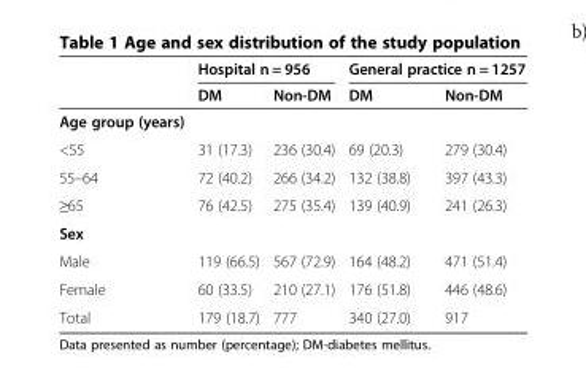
<table><thead><tr><td rowspan="2"></td><td colspan="2">Hospital n = 956</td><td colspan="2">General practice n = 1257</td></tr><tr><td>DM</td><td>Non-DM</td><td>DM</td><td>Non-DM</td></tr></thead><tbody><tr><td colspan="5">Age group (years)</td></tr><tr><td>&lt;55</td><td>31 (17.3)</td><td>236 (30.4)</td><td>69 (20.3)</td><td>279 (30.4)</td></tr><tr><td>55–64</td><td>72 (40.2)</td><td>266 (34.2)</td><td>132 (38.8)</td><td>397 (43.3)</td></tr><tr><td>≥65</td><td>76 (42.5)</td><td>275 (35.4)</td><td>139 (40.9)</td><td>241 (26.3)</td></tr><tr><td colspan="5">Sex</td></tr><tr><td>Male</td><td>119 (66.5)</td><td>567 (72.9)</td><td>164 (48.2)</td><td>471 (51.4)</td></tr><tr><td>Female</td><td>60 (33.5)</td><td>210 (27.1)</td><td>176 (51.8)</td><td>446 (48.6)</td></tr><tr><td>Total</td><td>179 (18.7)</td><td>777</td><td>340 (27.0)</td><td>917</td></tr></tbody></table>